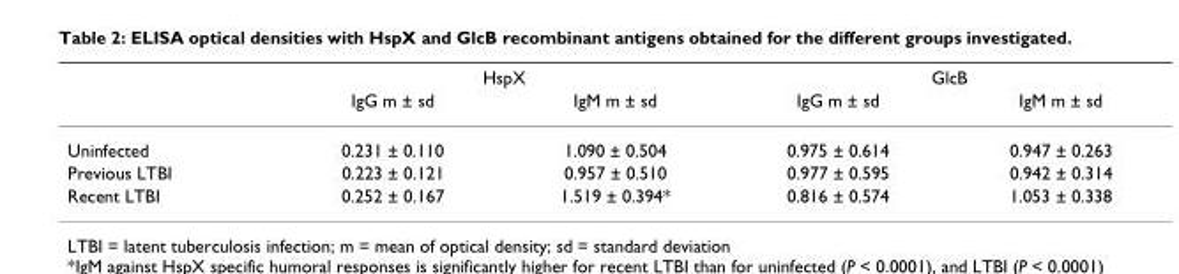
<table><thead><tr><td rowspan="2"></td><td colspan="2">HspX</td><td colspan="2">GlcB</td></tr><tr><td>IgG m ± sd</td><td>IgM m ± sd</td><td>IgG m ± sd</td><td>IgM m ± sd</td></tr></thead><tbody><tr><td>Uninfected</td><td>0.231 ± 0.110</td><td>1.090 ± 0.504</td><td>0.975 ± 0.614</td><td>0.947 ± 0.263</td></tr><tr><td>Previous LTBI</td><td>0.223 ± 0.121</td><td>0.957 ± 0.510</td><td>0.977 ± 0.595</td><td>0.942 ± 0.314</td></tr><tr><td>Recent LTBI</td><td>0.252 ± 0.167</td><td>1.519 ± 0.394*</td><td>0.816 ± 0.574</td><td>1.053 ± 0.338</td></tr></tbody></table>